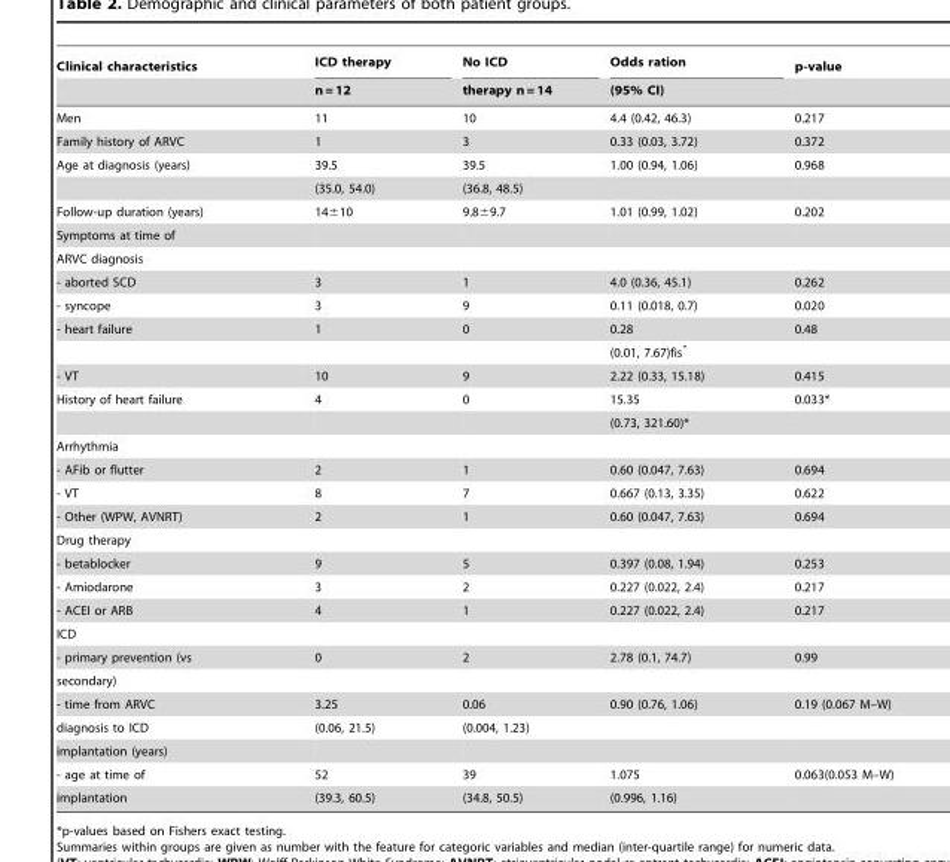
<table><thead><tr><td rowspan="2">Clinical characteristics</td><td rowspan="2">ICD therapy n = 12</td><td rowspan="2">No ICD therapy n = 14</td><td rowspan="2">Odds ration (95% CI)</td><td rowspan="2">p-value</td></tr><tr></tr></thead><tbody><tr><td>Men</td><td>11</td><td>10</td><td>4.4 (0.42, 46.3)</td><td>0.217</td></tr><tr><td>Family history of ARVC</td><td>1</td><td>3</td><td>0.33 (0.03, 3.72)</td><td>0.372</td></tr><tr><td rowspan="2">Age at diagnosis (years)</td><td>39.5</td><td>39.5</td><td>1.00 (0.94, 1.06)</td><td>0.968</td></tr><tr><td>(35.0, 54.0)</td><td>(36.8, 48.5)</td><td></td><td></td></tr><tr><td>Follow-up duration (years)</td><td>14±10</td><td>9.8±9.7</td><td>1.01 (0.99, 1.02)</td><td>0.202</td></tr><tr><td colspan="5">Symptoms at time of</td></tr><tr><td colspan="5">ARVC diagnosis</td></tr><tr><td>- aborted SCD</td><td>3</td><td>1</td><td>4.0 (0.36, 45.1)</td><td>0.262</td></tr><tr><td>- syncope</td><td>3</td><td>9</td><td>0.11 (0.018, 0.7)</td><td>0.020</td></tr><tr><td rowspan="2">- heart failure</td><td>1</td><td>0</td><td>0.28</td><td>0.48</td></tr><tr><td></td><td></td><td>(0.01, 7.67)fis*</td><td></td></tr><tr><td>- VT</td><td>10</td><td>9</td><td>2.22 (0.33, 15.18)</td><td>0.415</td></tr><tr><td rowspan="2">History of heart failure</td><td>4</td><td>0</td><td>15.35</td><td>0.033*</td></tr><tr><td></td><td></td><td>(0.73, 321.60)*</td><td></td></tr><tr><td colspan="5">Arrhythmia</td></tr><tr><td>- AFib or flutter</td><td>2</td><td>1</td><td>0.60 (0.047, 7.63)</td><td>0.694</td></tr><tr><td>- VT</td><td>8</td><td>7</td><td>0.667 (0.13, 3.35)</td><td>0.622</td></tr><tr><td>- Other (WPW, AVNRT)</td><td>2</td><td>1</td><td>0.60 (0.047, 7.63)</td><td>0.694</td></tr><tr><td colspan="5">Drug therapy</td></tr><tr><td>- betablocker</td><td>9</td><td>5</td><td>0.397 (0.08, 1.94)</td><td>0.253</td></tr><tr><td>- Amiodarone</td><td>3</td><td>2</td><td>0.227 (0.022, 2.4)</td><td>0.217</td></tr><tr><td>- ACEI or ARB</td><td>4</td><td>1</td><td>0.227 (0.022, 2.4)</td><td>0.217</td></tr><tr><td colspan="5">ICD</td></tr><tr><td>- primary prevention (vs</td><td>0</td><td>2</td><td>2.78 (0.1, 74.7)</td><td>0.99</td></tr><tr><td colspan="5">secondary)</td></tr><tr><td>- time from ARVC</td><td>3.25</td><td>0.06</td><td>0.90 (0.76, 1.06)</td><td>0.19 (0.067 M–W)</td></tr><tr><td>diagnosis to ICD</td><td>(0.06, 21.5)</td><td>(0.004, 1.23)</td><td></td><td></td></tr><tr><td colspan="5">implantation (years)</td></tr><tr><td>- age at time of</td><td>52</td><td>39</td><td>1.075</td><td>0.063(0.053 M–W)</td></tr><tr><td>implantation</td><td>(39.3, 60.5)</td><td>(34.8, 50.5)</td><td>(0.996, 1.16)</td><td></td></tr></tbody></table>